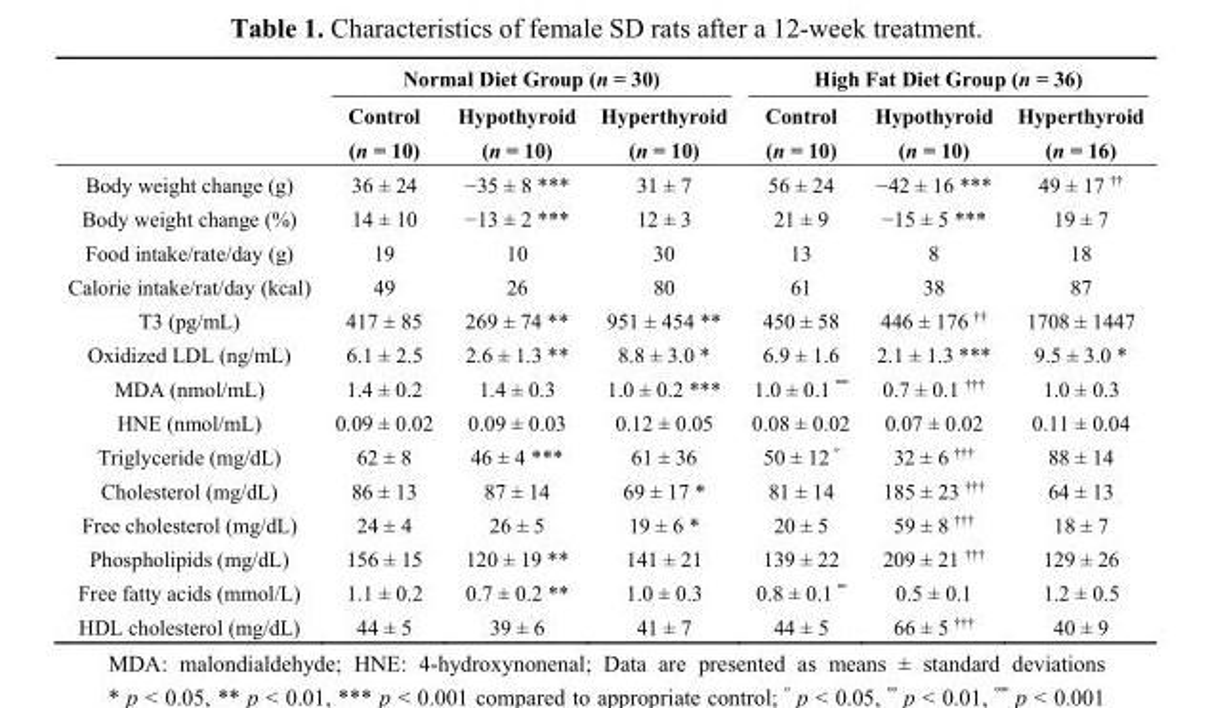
<table><thead><tr><td rowspan="2"></td><td colspan="3">Normal Diet Group (n = 30)</td><td colspan="3">High Fat Diet Group (n = 36)</td></tr><tr><td>Control (n = 10)</td><td>Hypothyroid (n = 10)</td><td>Hyperthyroid (n = 10)</td><td>Control (n = 10)</td><td>Hypothyroid (n = 10)</td><td>Hyperthyroid (n = 16)</td></tr></thead><tbody><tr><td>Body weight change (g)</td><td>36 ± 24</td><td>−35 ± 8 ***</td><td>31 ± 7</td><td>56 ± 24</td><td>−42 ± 16 ***</td><td>49 ± 17 <sup>††</sup></td></tr><tr><td>Body weight change (%)</td><td>14 ± 10</td><td>−13 ± 2 ***</td><td>12 ± 3</td><td>21 ± 9</td><td>−15 ± 5 ***</td><td>19 ± 7</td></tr><tr><td>Food intake/rate/day (g)</td><td>19</td><td>10</td><td>30</td><td>13</td><td>8</td><td>18</td></tr><tr><td>Calorie intake/rat/day (kcal)</td><td>49</td><td>26</td><td>80</td><td>61</td><td>38</td><td>87</td></tr><tr><td>T3 (pg/mL)</td><td>417 ± 85</td><td>269 ± 74 **</td><td>951 ± 454 **</td><td>450 ± 58</td><td>446 ± 176 <sup>††</sup></td><td>1708 ± 1447</td></tr><tr><td>Oxidized LDL (ng/mL)</td><td>6.1 ± 2.5</td><td>2.6 ± 1.3 **</td><td>8.8 ± 3.0 *</td><td>6.9 ± 1.6</td><td>2.1 ± 1.3 ***</td><td>9.5 ± 3.0 *</td></tr><tr><td>MDA (nmol/mL)</td><td>1.4 ± 0.2</td><td>1.4 ± 0.3</td><td>1.0 ± 0.2 ***</td><td>1.0 ± 0.1 <sup>ººº</sup></td><td>0.7 ± 0.1 <sup>†††</sup></td><td>1.0 ± 0.3</td></tr><tr><td>HNE (nmol/mL)</td><td>0.09 ± 0.02</td><td>0.09 ± 0.03</td><td>0.12 ± 0.05</td><td>0.08 ± 0.02</td><td>0.07 ± 0.02</td><td>0.11 ± 0.04</td></tr><tr><td>Triglyceride (mg/dL)</td><td>62 ± 8</td><td>46 ± 4 ***</td><td>61 ± 36</td><td>50 ± 12 <sup>º</sup></td><td>32 ± 6 <sup>†††</sup></td><td>88 ± 14</td></tr><tr><td>Cholesterol (mg/dL)</td><td>86 ± 13</td><td>87 ± 14</td><td>69 ± 17 *</td><td>81 ± 14</td><td>185 ± 23 <sup>†††</sup></td><td>64 ± 13</td></tr><tr><td>Free cholesterol (mg/dL)</td><td>24 ± 4</td><td>26 ± 5</td><td>19 ± 6 *</td><td>20 ± 5</td><td>59 ± 8 <sup>†††</sup></td><td>18 ± 7</td></tr><tr><td>Phospholipids (mg/dL)</td><td>156 ± 15</td><td>120 ± 19 **</td><td>141 ± 21</td><td>139 ± 22</td><td>209 ± 21 <sup>†††</sup></td><td>129 ± 26</td></tr><tr><td>Free fatty acids (mmol/L)</td><td>1.1 ± 0.2</td><td>0.7 ± 0.2 **</td><td>1.0 ± 0.3</td><td>0.8 ± 0.1 <sup>ºº</sup></td><td>0.5 ± 0.1</td><td>1.2 ± 0.5</td></tr><tr><td>HDL cholesterol (mg/dL)</td><td>44 ± 5</td><td>39 ± 6</td><td>41 ± 7</td><td>44 ± 5</td><td>66 ± 5 <sup>†††</sup></td><td>40 ± 9</td></tr></tbody></table>